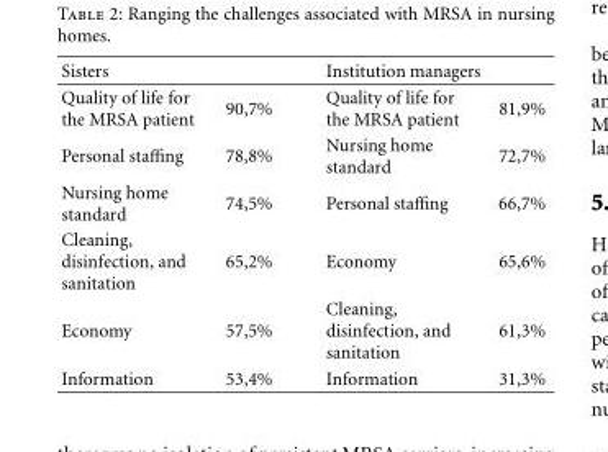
<table><thead><tr><td>Sisters</td><td></td><td>Institution managers</td><td></td></tr></thead><tbody><tr><td>Quality of life for the MRSA patient</td><td>90,7%</td><td>Quality of life for the MRSA patient</td><td>81,9%</td></tr><tr><td>Personal staffing</td><td>78,8%</td><td>Nursing home standard</td><td>72,7%</td></tr><tr><td>Nursing home standard</td><td>74,5%</td><td>Personal staffing</td><td>66,7%</td></tr><tr><td>Cleaning, disinfection, and sanitation</td><td>65,2%</td><td>Economy</td><td>65,6%</td></tr><tr><td>Economy</td><td>57,5%</td><td>Cleaning, disinfection, and sanitation</td><td>61,3%</td></tr><tr><td>Information</td><td>53,4%</td><td>Information</td><td>31,3%</td></tr></tbody></table>